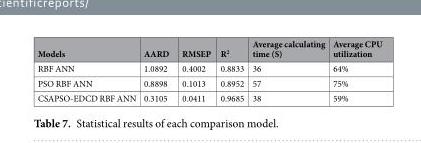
<table><thead><tr><td>Models</td><td>AARD</td><td>RMSEP</td><td>R<sup>2</sup></td><td>Average calculating time (S)</td><td>Average CPU utilization</td></tr></thead><tbody><tr><td>RBF ANN</td><td>1.0892</td><td>0.4002</td><td>0.8833</td><td>36</td><td>64%</td></tr><tr><td>PSO RBF ANN</td><td>0.8898</td><td>0.1013</td><td>0.8952</td><td>57</td><td>75%</td></tr><tr><td>CSAPSO-EDCD RBF ANN</td><td>0.3105</td><td>0.0411</td><td>0.9685</td><td>38</td><td>59%</td></tr></tbody></table>